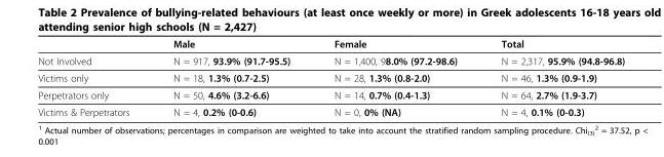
<table><thead><tr><td></td><td>Male</td><td>Female</td><td>Total</td></tr></thead><tbody><tr><td>Not Involved</td><td>N = 917, 93.9% (91.7-95.5)</td><td>N = 1,400, 98.0% (97.2-98.6)</td><td>N = 2,317, 95.9% (94.8-96.8)</td></tr><tr><td>Victims only</td><td>N = 18, 1.3% (0.7-2.5)</td><td>N = 28, 1.3% (0.8-2.0)</td><td>N = 46, 1.3% (0.9-1.9)</td></tr><tr><td>Perpetrators only</td><td>N = 50, 4.6% (3.2-6.6)</td><td>N = 14, 0.7% (0.4-1.3)</td><td>N = 64, 2.7% (1.9-3.7)</td></tr><tr><td>Victims &amp; Perpetrators</td><td>N = 4, 0.2% (0-0.6)</td><td>N = 0, 0% (NA)</td><td>N = 4, 0.1% (0-0.3)</td></tr></tbody></table>